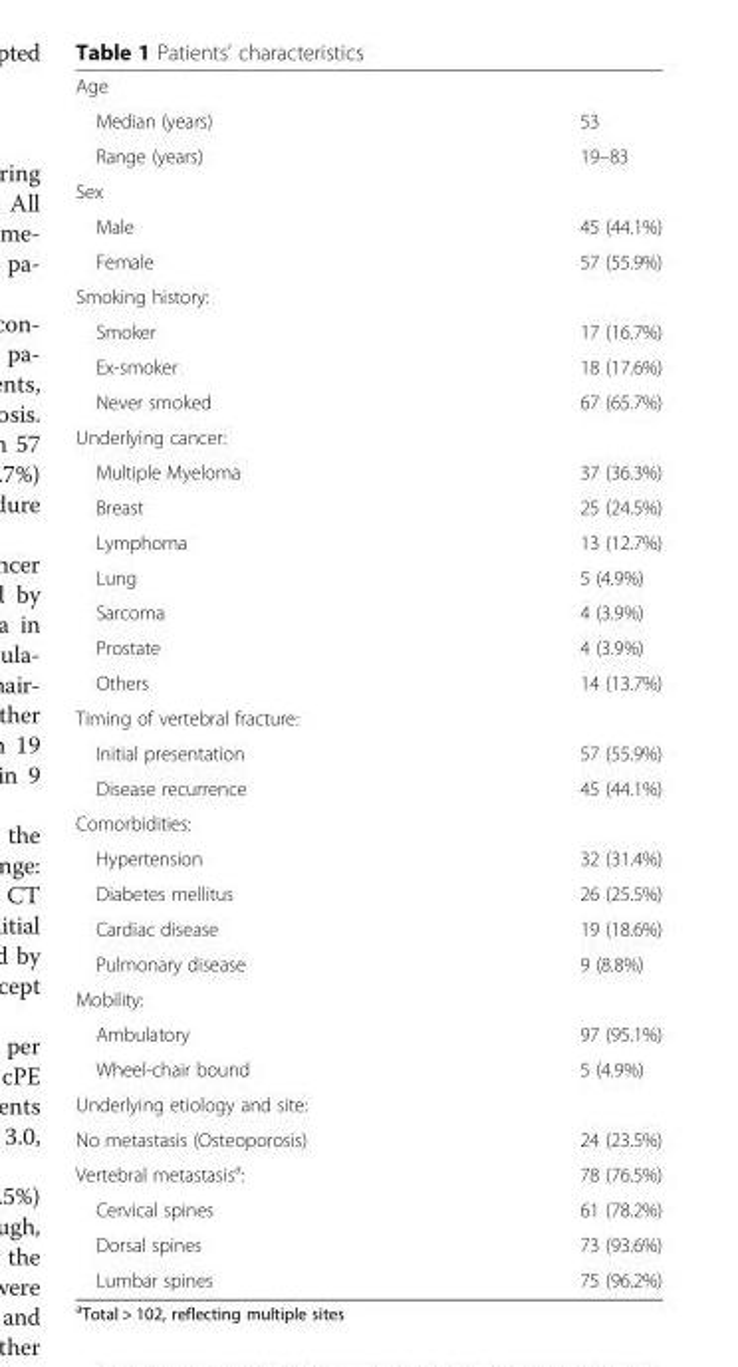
<table><tbody><tr><td colspan="2">Age</td></tr><tr><td>Median (years)</td><td>53</td></tr><tr><td>Range (years)</td><td>19–83</td></tr><tr><td colspan="2">Sex</td></tr><tr><td>Male</td><td>45 (44.1%)</td></tr><tr><td>Female</td><td>57 (55.9%)</td></tr><tr><td colspan="2">Smoking history:</td></tr><tr><td>Smoker</td><td>17 (16.7%)</td></tr><tr><td>Ex-smoker</td><td>18 (17.6%)</td></tr><tr><td>Never smoked</td><td>67 (65.7%)</td></tr><tr><td colspan="2">Underlying cancer:</td></tr><tr><td>Multiple Myeloma</td><td>37 (36.3%)</td></tr><tr><td>Breast</td><td>25 (24.5%)</td></tr><tr><td>Lymphoma</td><td>13 (12.7%)</td></tr><tr><td>Lung</td><td>5 (4.9%)</td></tr><tr><td>Sarcoma</td><td>4 (3.9%)</td></tr><tr><td>Prostate</td><td>4 (3.9%)</td></tr><tr><td>Others</td><td>14 (13.7%)</td></tr><tr><td colspan="2">Timing of vertebral fracture:</td></tr><tr><td>Initial presentation</td><td>57 (55.9%)</td></tr><tr><td>Disease recurrence</td><td>45 (44.1%)</td></tr><tr><td colspan="2">Comorbidities:</td></tr><tr><td>Hypertension</td><td>32 (31.4%)</td></tr><tr><td>Diabetes mellitus</td><td>26 (25.5%)</td></tr><tr><td>Cardiac disease</td><td>19 (18.6%)</td></tr><tr><td>Pulmonary disease</td><td>9 (8.8%)</td></tr><tr><td colspan="2">Mobility:</td></tr><tr><td>Ambulatory</td><td>97 (95.1%)</td></tr><tr><td>Wheel-chair bound</td><td>5 (4.9%)</td></tr><tr><td colspan="2">Underlying etiology and site:</td></tr><tr><td>No metastasis (Osteoporosis)</td><td>24 (23.5%)</td></tr><tr><td>Vertebral metastasis<sup>a</sup>:</td><td>78 (76.5%)</td></tr><tr><td>Cervical spines</td><td>61 (78.2%)</td></tr><tr><td>Dorsal spines</td><td>73 (93.6%)</td></tr><tr><td>Lumbar spines</td><td>75 (96.2%)</td></tr></tbody></table>